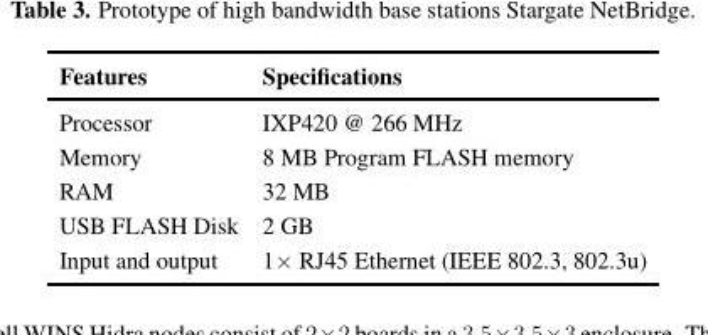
<table><thead><tr><td>Features</td><td>Specifications</td></tr></thead><tbody><tr><td>Processor</td><td>IXP420 @ 266 MHz</td></tr><tr><td>Memory</td><td>8 MB Program FLASH memory</td></tr><tr><td>RAM</td><td>32 MB</td></tr><tr><td>USB FLASH Disk</td><td>2 GB</td></tr><tr><td>Input and output</td><td>1× RJ45 Ethernet (IEEE 802.3, 802.3u)</td></tr></tbody></table>